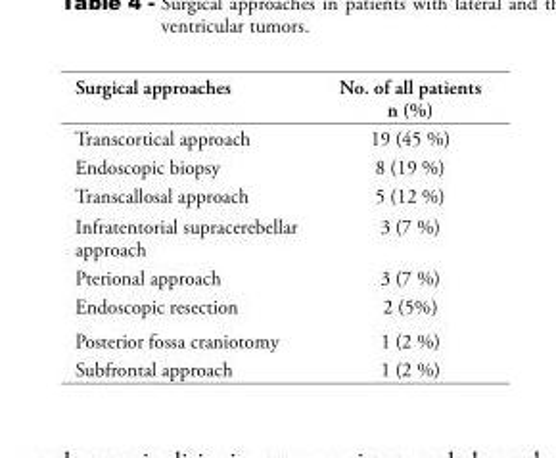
<table><thead><tr><td>Surgical approaches</td><td>No. of all patients n (%)</td></tr></thead><tbody><tr><td>Transcortical approach</td><td>19 (45 %)</td></tr><tr><td>Endoscopic biopsy</td><td>8 (19 %)</td></tr><tr><td>Transcallosal approach</td><td>5 (12 %)</td></tr><tr><td>Infratentorial supracerebellar approach</td><td>3 (7 %)</td></tr><tr><td>Pterional approach</td><td>3 (7 %)</td></tr><tr><td>Endoscopic resection</td><td>2 (5%)</td></tr><tr><td>Posterior fossa craniotomy</td><td>1 (2 %)</td></tr><tr><td>Subfrontal approach</td><td>1 (2 %)</td></tr></tbody></table>